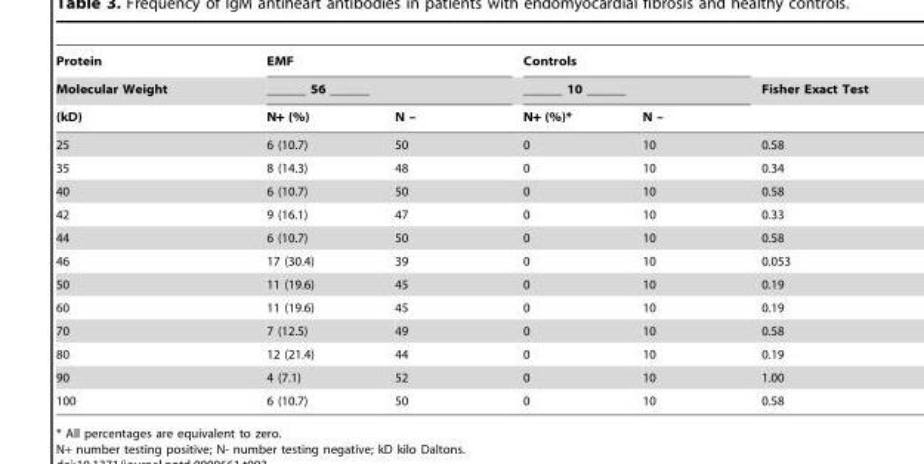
<table><thead><tr><td rowspan="3">Protein Molecular Weight (kD)</td><td rowspan="2" colspan="2">EMF ______ 56 ______</td><td rowspan="2" colspan="2">Controls ______ 10 ______</td><td rowspan="3">Fisher Exact Test</td></tr><tr></tr><tr><td>N+ (%)</td><td>N –</td><td>N+ (%)*</td><td>N –</td></tr></thead><tbody><tr><td>25</td><td>6 (10.7)</td><td>50</td><td>0</td><td>10</td><td>0.58</td></tr><tr><td>35</td><td>8 (14.3)</td><td>48</td><td>0</td><td>10</td><td>0.34</td></tr><tr><td>40</td><td>6 (10.7)</td><td>50</td><td>0</td><td>10</td><td>0.58</td></tr><tr><td>42</td><td>9 (16.1)</td><td>47</td><td>0</td><td>10</td><td>0.33</td></tr><tr><td>44</td><td>6 (10.7)</td><td>50</td><td>0</td><td>10</td><td>0.58</td></tr><tr><td>46</td><td>17 (30.4)</td><td>39</td><td>0</td><td>10</td><td>0.053</td></tr><tr><td>50</td><td>11 (19.6)</td><td>45</td><td>0</td><td>10</td><td>0.19</td></tr><tr><td>60</td><td>11 (19.6)</td><td>45</td><td>0</td><td>10</td><td>0.19</td></tr><tr><td>70</td><td>7 (12.5)</td><td>49</td><td>0</td><td>10</td><td>0.58</td></tr><tr><td>80</td><td>12 (21.4)</td><td>44</td><td>0</td><td>10</td><td>0.19</td></tr><tr><td>90</td><td>4 (7.1)</td><td>52</td><td>0</td><td>10</td><td>1.00</td></tr><tr><td>100</td><td>6 (10.7)</td><td>50</td><td>0</td><td>10</td><td>0.58</td></tr></tbody></table>